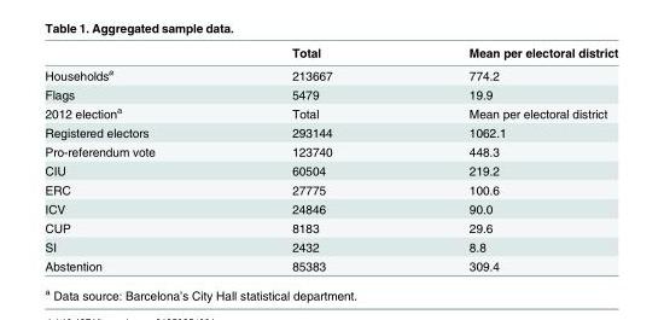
<table><thead><tr><td></td><td>Total</td><td>Mean per electoral district</td></tr></thead><tbody><tr><td>Households<sup>a</sup></td><td>213667</td><td>774.2</td></tr><tr><td>Flags</td><td>5479</td><td>19.9</td></tr><tr><td>2012 election<sup>a</sup></td><td>Total</td><td>Mean per electoral district</td></tr><tr><td>Registered electors</td><td>293144</td><td>1062.1</td></tr><tr><td>Pro-referendum vote</td><td>123740</td><td>448.3</td></tr><tr><td>CIU</td><td>60504</td><td>219.2</td></tr><tr><td>ERC</td><td>27775</td><td>100.6</td></tr><tr><td>ICV</td><td>24846</td><td>90.0</td></tr><tr><td>CUP</td><td>8183</td><td>29.6</td></tr><tr><td>SI</td><td>2432</td><td>8.8</td></tr><tr><td>Abstention</td><td>85383</td><td>309.4</td></tr></tbody></table>